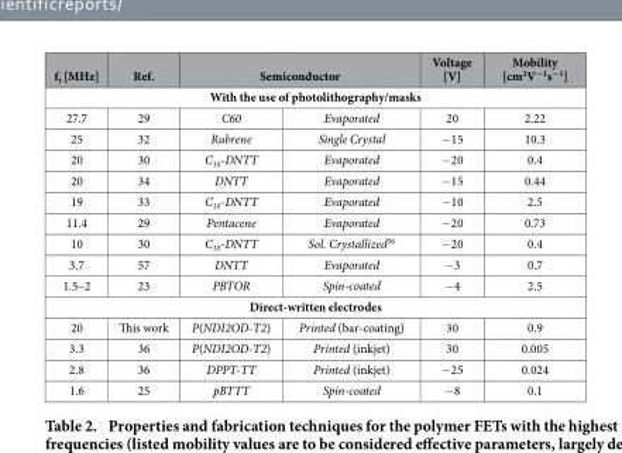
<table><thead><tr><td>f<sub>t</sub> [MHz]</td><td>Ref.</td><td colspan="2">Semiconductor</td><td>Voltage [V]</td><td>Mobility [cm<sup>2</sup>V<sup>−1</sup>s<sup>−1</sup>]</td></tr><tr><td colspan="6">With the use of photolithography/masks</td></tr><tr><td>27.7</td><td>29</td><td>C60</td><td>Evaporated</td><td>20</td><td>2.22</td></tr></thead><tbody><tr><td>25</td><td>32</td><td>Rubrene</td><td>Single Crystal</td><td>− 15</td><td>10.3</td></tr><tr><td>20</td><td>30</td><td>C<sub>10</sub>-DNTT</td><td>Evaporated</td><td>− 20</td><td>0.4</td></tr><tr><td>20</td><td>34</td><td>DNTT</td><td>Evaporated</td><td>− 15</td><td>0.44</td></tr><tr><td>19</td><td>33</td><td>C<sub>10</sub>-DNTT</td><td>Evaporated</td><td>− 10</td><td>2.5</td></tr><tr><td>11.4</td><td>29</td><td>Pentacene</td><td>Evaporated</td><td>− 20</td><td>0.73</td></tr><tr><td>10</td><td>30</td><td>C<sub>10</sub>-DNTT</td><td>Sol. Crystallized<sup>56</sup></td><td>− 20</td><td>0.4</td></tr><tr><td>3.7</td><td>57</td><td>DNTT</td><td>Evaporated</td><td>− 3</td><td>0.7</td></tr><tr><td>1.5–2</td><td>23</td><td>PBTOR</td><td>Spin-coated</td><td>− 4</td><td>2.5</td></tr><tr><td colspan="6">Direct-written electrodes</td></tr><tr><td>20</td><td>This work</td><td>P(NDI2OD-T2)</td><td>Printed (bar-coating)</td><td>30</td><td>0.9</td></tr><tr><td>3.3</td><td>36</td><td>P(NDI2OD-T2)</td><td>Printed (inkjet)</td><td>30</td><td>0.005</td></tr><tr><td>2.8</td><td>36</td><td>DPPT-TT</td><td>Printed (inkjet)</td><td>− 25</td><td>0.024</td></tr><tr><td>1.6</td><td>25</td><td>pBTTT</td><td>Spin-coated</td><td>− 8</td><td>0.1</td></tr></tbody></table>